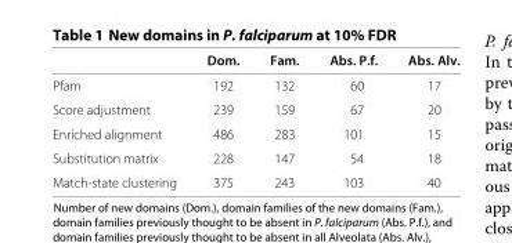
<table><thead><tr><td></td><td>Dom.</td><td>Fam.</td><td>Abs. P.f.</td><td>Abs. Alv.</td></tr></thead><tbody><tr><td>Pfam</td><td>192</td><td>132</td><td>60</td><td>17</td></tr><tr><td>Score adjustment</td><td>239</td><td>159</td><td>67</td><td>20</td></tr><tr><td>Enriched alignment</td><td>486</td><td>283</td><td>101</td><td>15</td></tr><tr><td>Substitution matrix</td><td>228</td><td>147</td><td>54</td><td>18</td></tr><tr><td>Match-state clustering</td><td>375</td><td>243</td><td>103</td><td>40</td></tr></tbody></table>